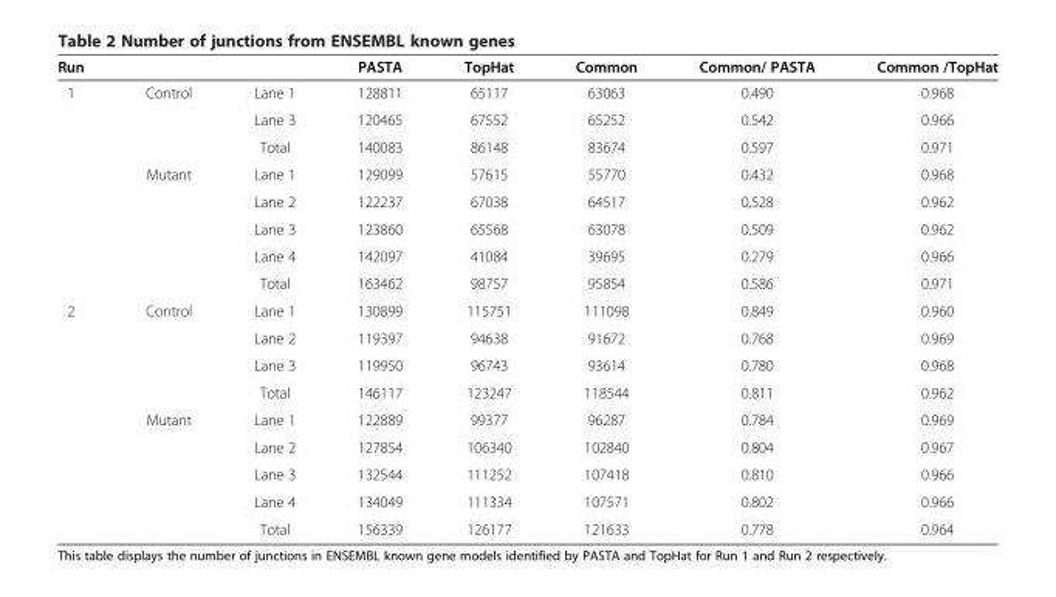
<table><thead><tr><td>Run</td><td></td><td></td><td>PASTA</td><td>TopHat</td><td>Common</td><td>Common/ PASTA</td><td>Common /TopHat</td></tr></thead><tbody><tr><td rowspan="8">1</td><td>Control</td><td>Lane 1</td><td>128811</td><td>65117</td><td>63063</td><td>0.490</td><td>0.968</td></tr><tr><td></td><td>Lane 3</td><td>120465</td><td>67552</td><td>65252</td><td>0.542</td><td>0.966</td></tr><tr><td></td><td>Total</td><td>140083</td><td>86148</td><td>83674</td><td>0.597</td><td>0.971</td></tr><tr><td>Mutant</td><td>Lane 1</td><td>129099</td><td>57615</td><td>55770</td><td>0.432</td><td>0.968</td></tr><tr><td></td><td>Lane 2</td><td>122237</td><td>67038</td><td>64517</td><td>0.528</td><td>0.962</td></tr><tr><td></td><td>Lane 3</td><td>123860</td><td>65568</td><td>63078</td><td>0.509</td><td>0.962</td></tr><tr><td></td><td>Lane 4</td><td>142097</td><td>41084</td><td>39695</td><td>0.279</td><td>0.966</td></tr><tr><td></td><td>Total</td><td>163462</td><td>98757</td><td>95854</td><td>0.586</td><td>0.971</td></tr><tr><td rowspan="9">2</td><td>Control</td><td>Lane 1</td><td>130899</td><td>115751</td><td>111098</td><td>0.849</td><td>0.960</td></tr><tr><td></td><td>Lane 2</td><td>119397</td><td>94638</td><td>91672</td><td>0.768</td><td>0.969</td></tr><tr><td></td><td>Lane 3</td><td>119950</td><td>96743</td><td>93614</td><td>0.780</td><td>0.968</td></tr><tr><td></td><td>Total</td><td>146117</td><td>123247</td><td>118544</td><td>0.811</td><td>0.962</td></tr><tr><td>Mutant</td><td>Lane 1</td><td>122889</td><td>99377</td><td>96287</td><td>0.784</td><td>0.969</td></tr><tr><td></td><td>Lane 2</td><td>127854</td><td>106340</td><td>102840</td><td>0.804</td><td>0.967</td></tr><tr><td></td><td>Lane 3</td><td>132544</td><td>111252</td><td>107418</td><td>0.810</td><td>0.966</td></tr><tr><td></td><td>Lane 4</td><td>134049</td><td>111334</td><td>107571</td><td>0.802</td><td>0.966</td></tr><tr><td></td><td>Total</td><td>156339</td><td>126177</td><td>121633</td><td>0.778</td><td>0.964</td></tr></tbody></table>